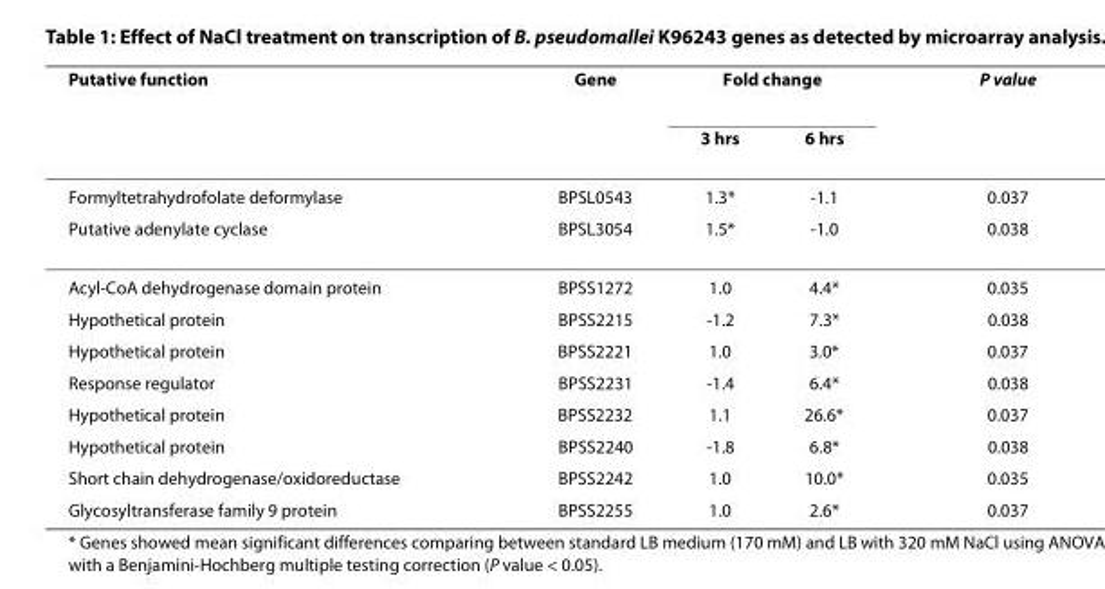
<table><thead><tr><td rowspan="2">Putative function</td><td rowspan="2">Gene</td><td colspan="2">Fold change</td><td rowspan="2">P value</td></tr><tr><td>3 hrs</td><td>6 hrs</td></tr></thead><tbody><tr><td>Formyltetrahydrofolate deformylase</td><td>BPSL0543</td><td>1.3*</td><td>-1.1</td><td>0.037</td></tr><tr><td>Putative adenylate cyclase</td><td>BPSL3054</td><td>1.5*</td><td>-1.0</td><td>0.038</td></tr><tr><td>Acyl-CoA dehydrogenase domain protein</td><td>BPSS1272</td><td>1.0</td><td>4.4*</td><td>0.035</td></tr><tr><td>Hypothetical protein</td><td>BPSS2215</td><td>-1.2</td><td>7.3*</td><td>0.038</td></tr><tr><td>Hypothetical protein</td><td>BPSS2221</td><td>1.0</td><td>3.0*</td><td>0.037</td></tr><tr><td>Response regulator</td><td>BPSS2231</td><td>-1.4</td><td>6.4*</td><td>0.038</td></tr><tr><td>Hypothetical protein</td><td>BPSS2232</td><td>1.1</td><td>26.6*</td><td>0.037</td></tr><tr><td>Hypothetical protein</td><td>BPSS2240</td><td>-1.8</td><td>6.8*</td><td>0.038</td></tr><tr><td>Short chain dehydrogenase/oxidoreductase</td><td>BPSS2242</td><td>1.0</td><td>10.0*</td><td>0.035</td></tr><tr><td>Glycosyltransferase family 9 protein</td><td>BPSS2255</td><td>1.0</td><td>2.6*</td><td>0.037</td></tr></tbody></table>